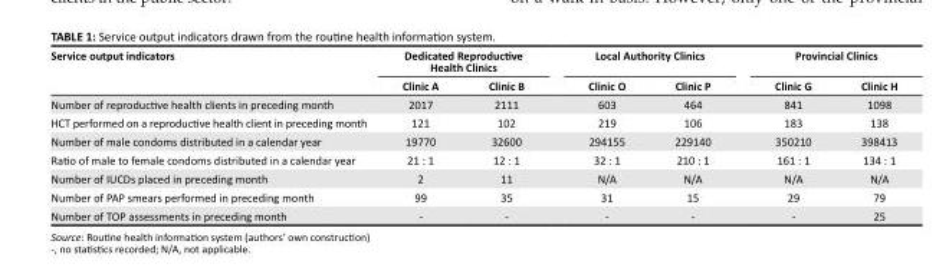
<table><thead><tr><td rowspan="2">Service output indicators</td><td colspan="2">Dedicated Reproductive Health Clinics</td><td colspan="2">Local Authority Clinics</td><td colspan="2">Provincial Clinics</td></tr><tr><td>Clinic A</td><td>Clinic B</td><td>Clinic O</td><td>Clinic P</td><td>Clinic G</td><td>Clinic H</td></tr></thead><tbody><tr><td>Number of reproductive health clients in preceding month</td><td>2017</td><td>2111</td><td>603</td><td>464</td><td>841</td><td>1098</td></tr><tr><td>HCT performed on a reproductive health client in preceding month</td><td>121</td><td>102</td><td>219</td><td>106</td><td>183</td><td>138</td></tr><tr><td>Number of male condoms distributed in a calendar year</td><td>19770</td><td>32600</td><td>294155</td><td>229140</td><td>350210</td><td>398413</td></tr><tr><td>Ratio of male to female condoms distributed in a calendar year</td><td>21 : 1</td><td>12 : 1</td><td>32 : 1</td><td>210 : 1</td><td>161 : 1</td><td>134 : 1</td></tr><tr><td>Number of IUCDs placed in preceding month</td><td>2</td><td>11</td><td>N/A</td><td>N/A</td><td>N/A</td><td>N/A</td></tr><tr><td>Number of PAP smears performed in preceding month</td><td>99</td><td>35</td><td>31</td><td>15</td><td>29</td><td>79</td></tr><tr><td>Number of TOP assessments in preceding month</td><td>-</td><td>-</td><td>-</td><td>-</td><td>-</td><td>25</td></tr></tbody></table>